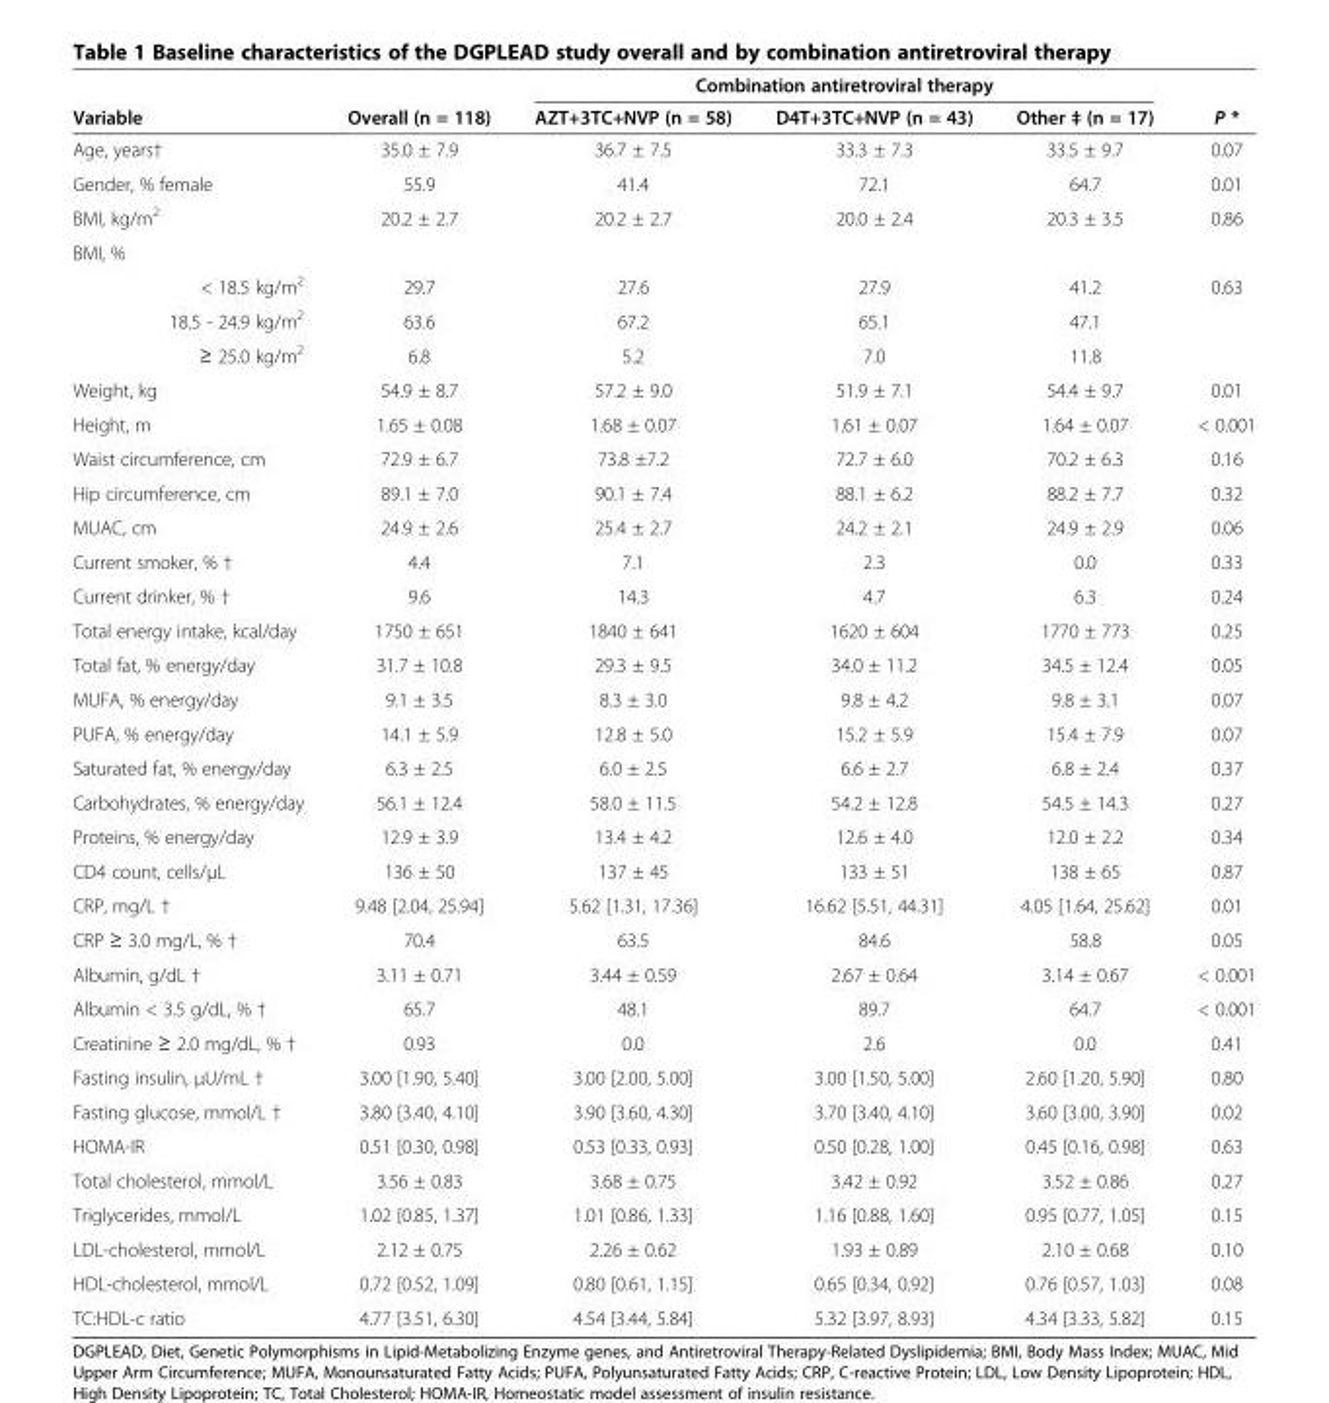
<table><thead><tr><td rowspan="2">Variable</td><td rowspan="2">Overall (n = 118)</td><td colspan="3">Combination antiretroviral therapy</td><td rowspan="2">P *</td></tr><tr><td>AZT+3TC+NVP (n = 58)</td><td>D4T+3TC+NVP (n = 43)</td><td>Other ‡ (n = 17)</td></tr></thead><tbody><tr><td>Age, years†</td><td>35.0 ± 7.9</td><td>36.7 ± 7.5</td><td>33.3 ± 7.3</td><td>33.5 ± 9.7</td><td>0.07</td></tr><tr><td>Gender, % female</td><td>55.9</td><td>41.4</td><td>72.1</td><td>64.7</td><td>0.01</td></tr><tr><td>BMI, kg/m<sup>2</sup></td><td>20.2 ± 2.7</td><td>20.2 ± 2.7</td><td>20.0 ± 2.4</td><td>20.3 ± 3.5</td><td>0.86</td></tr><tr><td colspan="6">BMI, %</td></tr><tr><td>&lt; 18.5 kg/m<sup>2</sup></td><td>29.7</td><td>27.6</td><td>27.9</td><td>41.2</td><td>0.63</td></tr><tr><td>18.5 - 24.9 kg/m<sup>2</sup></td><td>63.6</td><td>67.2</td><td>65.1</td><td>47.1</td><td></td></tr><tr><td>≥ 25.0 kg/m<sup>2</sup></td><td>6.8</td><td>5.2</td><td>7.0</td><td>11.8</td><td></td></tr><tr><td>Weight, kg</td><td>54.9 ± 8.7</td><td>57.2 ± 9.0</td><td>51.9 ± 7.1</td><td>54.4 ± 9.7</td><td>0.01</td></tr><tr><td>Height, m</td><td>1.65 ± 0.08</td><td>1.68 ± 0.07</td><td>1.61 ± 0.07</td><td>1.64 ± 0.07</td><td>&lt; 0.001</td></tr><tr><td>Waist circumference, cm</td><td>72.9 ± 6.7</td><td>73.8 ±7.2</td><td>72.7 ± 6.0</td><td>70.2 ± 6.3</td><td>0.16</td></tr><tr><td>Hip circumference, cm</td><td>89.1 ± 7.0</td><td>90.1 ± 7.4</td><td>88.1 ± 6.2</td><td>88.2 ± 7.7</td><td>0.32</td></tr><tr><td>MUAC, cm</td><td>24.9 ± 2.6</td><td>25.4 ± 2.7</td><td>24.2 ± 2.1</td><td>24.9 ± 2.9</td><td>0.06</td></tr><tr><td>Current smoker, % †</td><td>4.4</td><td>7.1</td><td>2.3</td><td>0.0</td><td>0.33</td></tr><tr><td>Current drinker, % †</td><td>9.6</td><td>14.3</td><td>4.7</td><td>6.3</td><td>0.24</td></tr><tr><td>Total energy intake, kcal/day</td><td>1750 ± 651</td><td>1840 ± 641</td><td>1620 ± 604</td><td>1770 ± 773</td><td>0.25</td></tr><tr><td>Total fat, % energy/day</td><td>31.7 ± 10.8</td><td>29.3 ± 9.5</td><td>34.0 ± 11.2</td><td>34.5 ± 12.4</td><td>0.05</td></tr><tr><td>MUFA, % energy/day</td><td>9.1 ± 3.5</td><td>8.3 ± 3.0</td><td>9.8 ± 4.2</td><td>9.8 ± 3.1</td><td>0.07</td></tr><tr><td>PUFA, % energy/day</td><td>14.1 ± 5.9</td><td>12.8 ± 5.0</td><td>15.2 ± 5.9</td><td>15.4 ± 7.9</td><td>0.07</td></tr><tr><td>Saturated fat, % energy/day</td><td>6.3 ± 2.5</td><td>6.0 ± 2.5</td><td>6.6 ± 2.7</td><td>6.8 ± 2.4</td><td>0.37</td></tr><tr><td>Carbohydrates, % energy/day</td><td>56.1 ± 12.4</td><td>58.0 ± 11.5</td><td>54.2 ± 12.8</td><td>54.5 ± 14.3</td><td>0.27</td></tr><tr><td>Proteins, % energy/day</td><td>12.9 ± 3.9</td><td>13.4 ± 4.2</td><td>12.6 ± 4.0</td><td>12.0 ± 2.2</td><td>0.34</td></tr><tr><td>CD4 count, cells/μL</td><td>136 ± 50</td><td>137 ± 45</td><td>133 ± 51</td><td>138 ± 65</td><td>0.87</td></tr><tr><td>CRP, mg/L †</td><td>9.48 [2.04, 25.94]</td><td>5.62 [1.31, 17.36]</td><td>16.62 [5.51, 44.31]</td><td>4.05 [1.64, 25.62]</td><td>0.01</td></tr><tr><td>CRP ≥ 3.0 mg/L, % †</td><td>70.4</td><td>63.5</td><td>84.6</td><td>58.8</td><td>0.05</td></tr><tr><td>Albumin, g/dL †</td><td>3.11 ± 0.71</td><td>3.44 ± 0.59</td><td>2.67 ± 0.64</td><td>3.14 ± 0.67</td><td>&lt; 0.001</td></tr><tr><td>Albumin &lt; 3.5 g/dL, % †</td><td>65.7</td><td>48.1</td><td>89.7</td><td>64.7</td><td>&lt; 0.001</td></tr><tr><td>Creatinine ≥ 2.0 mg/dL, % †</td><td>0.93</td><td>0.0</td><td>2.6</td><td>0.0</td><td>0.41</td></tr><tr><td>Fasting insulin, μU/mL †</td><td>3.00 [1.90, 5.40]</td><td>3.00 [2.00, 5.00]</td><td>3.00 [1.50, 5.00]</td><td>2.60 [1.20, 5.90]</td><td>0.80</td></tr><tr><td>Fasting glucose, mmol/L †</td><td>3.80 [3.40, 4.10]</td><td>3.90 [3.60, 4.30]</td><td>3.70 [3.40, 4.10]</td><td>3.60 [3.00, 3.90]</td><td>0.02</td></tr><tr><td>HOMA-IR</td><td>0.51 [0.30, 0.98]</td><td>0.53 [0.33, 0.93]</td><td>0.50 [0.28, 1.00]</td><td>0.45 [0.16, 0.98]</td><td>0.63</td></tr><tr><td>Total cholesterol, mmol/L</td><td>3.56 ± 0.83</td><td>3.68 ± 0.75</td><td>3.42 ± 0.92</td><td>3.52 ± 0.86</td><td>0.27</td></tr><tr><td>Triglycerides, mmol/L</td><td>1.02 [0.85, 1.37]</td><td>1.01 [0.86, 1.33]</td><td>1.16 [0.88, 1.60]</td><td>0.95 [0.77, 1.05]</td><td>0.15</td></tr><tr><td>LDL-cholesterol, mmol/L</td><td>2.12 ± 0.75</td><td>2.26 ± 0.62</td><td>1.93 ± 0.89</td><td>2.10 ± 0.68</td><td>0.10</td></tr><tr><td>HDL-cholesterol, mmol/L</td><td>0.72 [0.52, 1.09]</td><td>0.80 [0.61, 1.15]</td><td>0.65 [0.34, 0.92]</td><td>0.76 [0.57, 1.03]</td><td>0.08</td></tr><tr><td>TC:HDL-c ratio</td><td>4.77 [3.51, 6.30]</td><td>4.54 [3.44, 5.84]</td><td>5.32 [3.97, 8.93]</td><td>4.34 [3.33, 5.82]</td><td>0.15</td></tr></tbody></table>